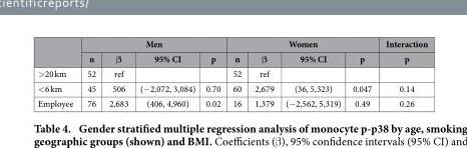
<table><thead><tr><td rowspan="2"></td><td colspan="4">Men</td><td colspan="4">Women</td><td rowspan="2">Interaction p</td></tr><tr><td>n</td><td>β</td><td>95% CI</td><td>p</td><td>n</td><td>β</td><td>95% CI</td><td>p</td></tr></thead><tbody><tr><td>&gt; 20 km</td><td>52</td><td>ref</td><td></td><td></td><td>52</td><td>ref</td><td></td><td></td><td></td></tr><tr><td>&lt; 6 km</td><td>45</td><td>506</td><td>(− 2,072, 3,084)</td><td>0.70</td><td>60</td><td>2,679</td><td>(36, 5,323)</td><td>0.047</td><td>0.14</td></tr><tr><td>Employee</td><td>76</td><td>2,683</td><td>(406, 4,960)</td><td>0.02</td><td>16</td><td>1,379</td><td>(− 2,562, 5,319)</td><td>0.49</td><td>0.26</td></tr></tbody></table>